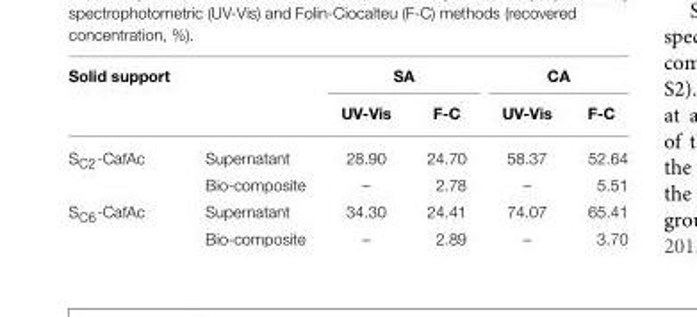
<table><thead><tr><td rowspan="2">Solid support</td><td rowspan="2"></td><td colspan="2">SA</td><td colspan="2">CA</td></tr><tr><td>UV-Vis</td><td>F-C</td><td>UV-Vis</td><td>F-C</td></tr></thead><tbody><tr><td rowspan="2">S<sub>C2</sub>-CafAc</td><td>Supernatant</td><td>28.90</td><td>24.70</td><td>58.37</td><td>52.64</td></tr><tr><td>Bio-composite</td><td>–</td><td>2.78</td><td>–</td><td>5.51</td></tr><tr><td rowspan="2">S<sub>C6</sub>-CafAc</td><td>Supernatant</td><td>34.30</td><td>24.41</td><td>74.07</td><td>65.41</td></tr><tr><td>Bio-composite</td><td>–</td><td>2.89</td><td>–</td><td>3.70</td></tr></tbody></table>